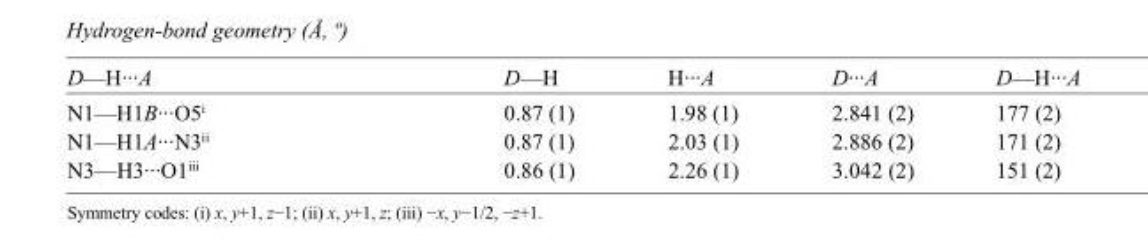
<table><tbody><tr><td>D—H···A</td><td>D—H</td><td>H···A</td><td>D···A</td><td>D—H···A</td></tr><tr><td>N1—H1B···O5<sup>i</sup></td><td>0.87 (1)</td><td>1.98 (1)</td><td>2.841 (2)</td><td>177 (2)</td></tr><tr><td>N1—H1A···N3<sup>ii</sup></td><td>0.87 (1)</td><td>2.03 (1)</td><td>2.886 (2)</td><td>171 (2)</td></tr><tr><td>N3—H3···O1<sup>iii</sup></td><td>0.86 (1)</td><td>2.26 (1)</td><td>3.042 (2)</td><td>151 (2)</td></tr></tbody></table>